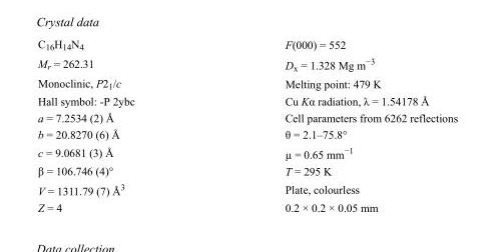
<table><tbody><tr><td>C<sub>16</sub>H<sub>14</sub>N<sub>4</sub></td><td>F(000) = 552</td></tr><tr><td>M<sub>r</sub> = 262.31</td><td>D<sub>x</sub> = 1.328 Mg m<sup>−3</sup></td></tr><tr><td>Monoclinic, P2<sub>1</sub>/c</td><td>Melting point: 479 K</td></tr><tr><td>Hall symbol: -P 2ybc</td><td>Cu Kα radiation, λ = 1.54178 Å</td></tr><tr><td>a = 7.2534 (2) Å</td><td>Cell parameters from 6262 reflections</td></tr><tr><td>b = 20.8270 (6) Å</td><td>θ = 2.1–75.8°</td></tr><tr><td>c = 9.0681 (3) Å</td><td>µ = 0.65 mm<sup>−1</sup></td></tr><tr><td>β = 106.746 (4)°</td><td>T = 295 K</td></tr><tr><td>V = 1311.79 (7) Å<sup>3</sup></td><td>Plate, colourless</td></tr><tr><td>Z = 4</td><td>0.2 × 0.2 × 0.05 mm</td></tr></tbody></table>